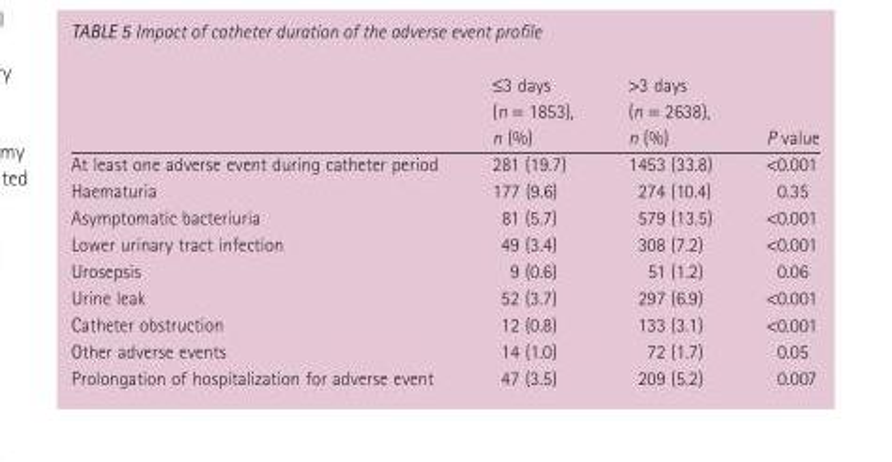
<table><thead><tr><td></td><td>≤ 3 days ( n = 1853), n (%)</td><td>&gt; 3 days ( n = 2638), n (%)</td><td>P value</td></tr></thead><tbody><tr><td>At least one adverse event during catheter period</td><td>281 (19.7)</td><td>1453 (33.8)</td><td>&lt; 0.001</td></tr><tr><td>Haematuria</td><td>177 (9.6)</td><td>274 (10.4)</td><td>0.35</td></tr><tr><td>Asymptomatic bacteriuria</td><td>81 (5.7)</td><td>579 (13.5)</td><td>&lt; 0.001</td></tr><tr><td>Lower urinary tract infection</td><td>49 (3.4)</td><td>308 (7.2)</td><td>&lt; 0.001</td></tr><tr><td>Urosepsis</td><td>9 (0.6)</td><td>51 (1.2)</td><td>0.06</td></tr><tr><td>Urine leak</td><td>52 (3.7)</td><td>297 (6.9)</td><td>&lt; 0.001</td></tr><tr><td>Catheter obstruction</td><td>12 (0.8)</td><td>133 (3.1)</td><td>&lt; 0.001</td></tr><tr><td>Other adverse events</td><td>14 (1.0)</td><td>72 (1.7)</td><td>0.05</td></tr><tr><td>Prolongation of hospitalization for adverse event</td><td>47 (3.5)</td><td>209 (5.2)</td><td>0.007</td></tr></tbody></table>